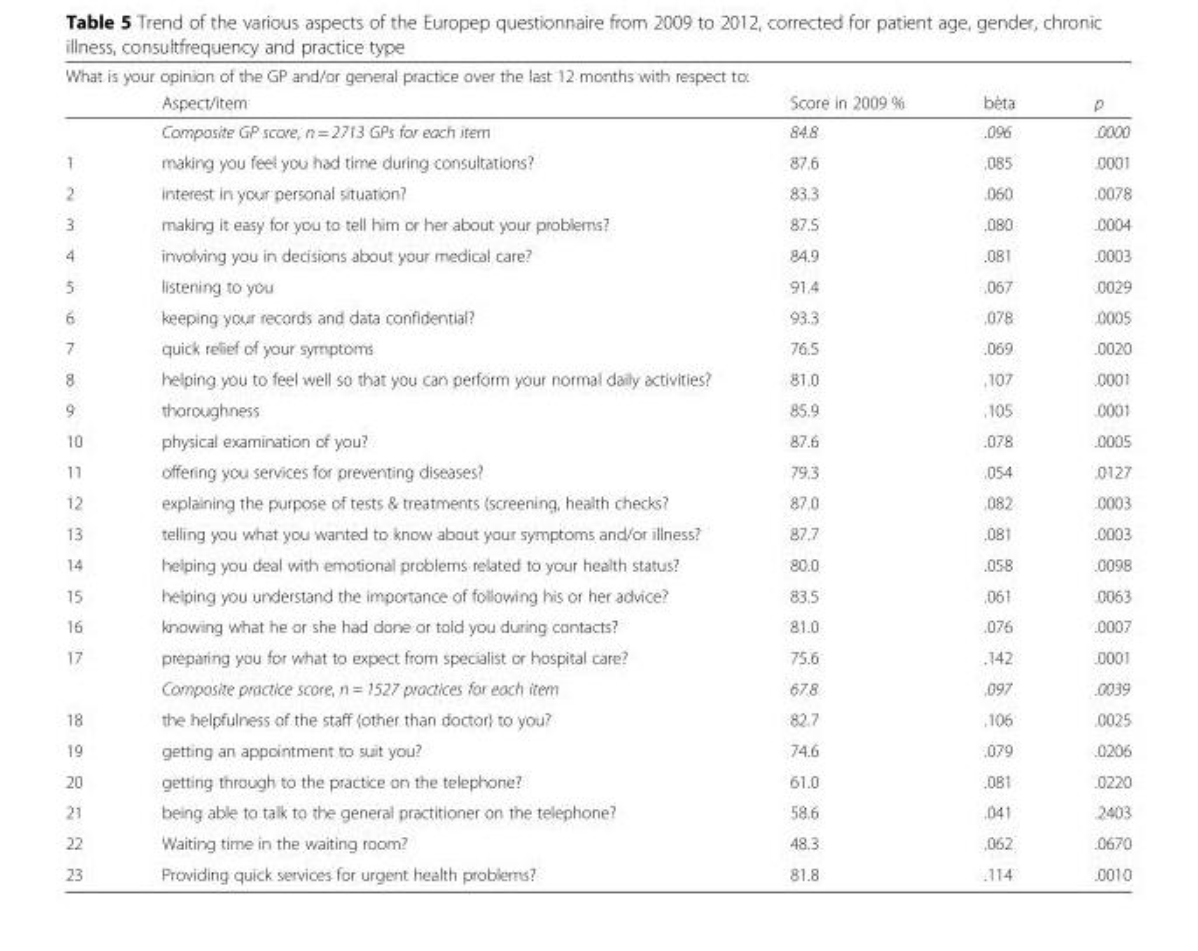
<table><thead><tr><td colspan="5">What is your opinion of the GP and/or general practice over the last 12 months with respect to:</td></tr><tr><td></td><td>Aspect/item</td><td>Score in 2009 %</td><td>bèta</td><td>p</td></tr></thead><tbody><tr><td></td><td>Composite GP score, n = 2713 GPs for each item</td><td>84.8</td><td>.096</td><td>.0000</td></tr><tr><td>1</td><td>making you feel you had time during consultations?</td><td>87.6</td><td>.085</td><td>.0001</td></tr><tr><td>2</td><td>interest in your personal situation?</td><td>83.3</td><td>.060</td><td>.0078</td></tr><tr><td>3</td><td>making it easy for you to tell him or her about your problems?</td><td>87.5</td><td>.080</td><td>.0004</td></tr><tr><td>4</td><td>involving you in decisions about your medical care?</td><td>84.9</td><td>.081</td><td>.0003</td></tr><tr><td>5</td><td>listening to you</td><td>91.4</td><td>.067</td><td>.0029</td></tr><tr><td>6</td><td>keeping your records and data confidential?</td><td>93.3</td><td>.078</td><td>.0005</td></tr><tr><td>7</td><td>quick relief of your symptoms</td><td>76.5</td><td>.069</td><td>.0020</td></tr><tr><td>8</td><td>helping you to feel well so that you can perform your normal daily activities?</td><td>81.0</td><td>.107</td><td>.0001</td></tr><tr><td>9</td><td>thoroughness</td><td>85.9</td><td>.105</td><td>.0001</td></tr><tr><td>10</td><td>physical examination of you?</td><td>87.6</td><td>.078</td><td>.0005</td></tr><tr><td>11</td><td>offering you services for preventing diseases?</td><td>79.3</td><td>.054</td><td>.0127</td></tr><tr><td>12</td><td>explaining the purpose of tests &amp; treatments (screening, health checks?</td><td>87.0</td><td>.082</td><td>.0003</td></tr><tr><td>13</td><td>telling you what you wanted to know about your symptoms and/or illness?</td><td>87.7</td><td>.081</td><td>.0003</td></tr><tr><td>14</td><td>helping you deal with emotional problems related to your health status?</td><td>80.0</td><td>.058</td><td>.0098</td></tr><tr><td>15</td><td>helping you understand the importance of following his or her advice?</td><td>83.5</td><td>.061</td><td>.0063</td></tr><tr><td>16</td><td>knowing what he or she had done or told you during contacts?</td><td>81.0</td><td>.076</td><td>.0007</td></tr><tr><td rowspan="2">17</td><td>preparing you for what to expect from specialist or hospital care?</td><td>75.6</td><td>.142</td><td>.0001</td></tr><tr><td>Composite practice score, n = 1527 practices for each item</td><td>67.8</td><td>.097</td><td>.0039</td></tr><tr><td>18</td><td>the helpfulness of the staff (other than doctor) to you?</td><td>82.7</td><td>.106</td><td>.0025</td></tr><tr><td>19</td><td>getting an appointment to suit you?</td><td>74.6</td><td>.079</td><td>.0206</td></tr><tr><td>20</td><td>getting through to the practice on the telephone?</td><td>61.0</td><td>.081</td><td>.0220</td></tr><tr><td>21</td><td>being able to talk to the general practitioner on the telephone?</td><td>58.6</td><td>.041</td><td>.2403</td></tr><tr><td>22</td><td>Waiting time in the waiting room?</td><td>48.3</td><td>.062</td><td>.0670</td></tr><tr><td>23</td><td>Providing quick services for urgent health problems?</td><td>81.8</td><td>.114</td><td>.0010</td></tr></tbody></table>